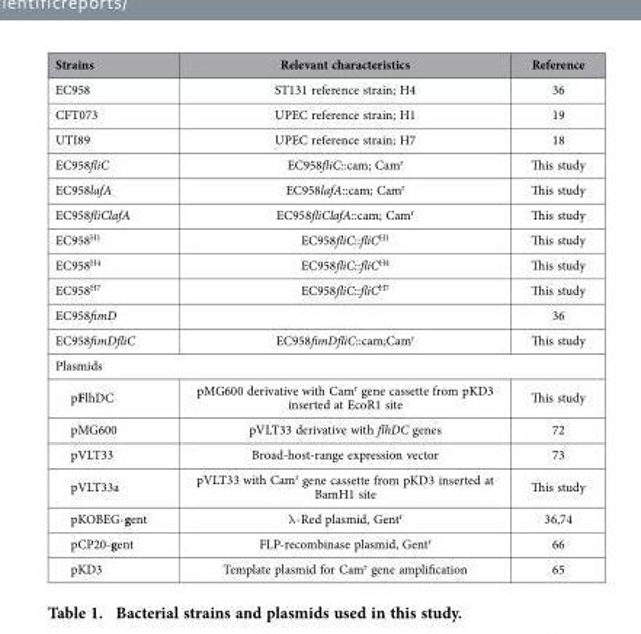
<table><thead><tr><td>Strains</td><td>Relevant characteristics</td><td>Reference</td></tr></thead><tbody><tr><td>EC958</td><td>ST131 reference strain; H4</td><td>36</td></tr><tr><td>CFT073</td><td>UPEC reference strain; H1</td><td>19</td></tr><tr><td>UTI89</td><td>UPEC reference strain; H7</td><td>18</td></tr><tr><td>EC958fliC</td><td>EC958fliC::cam; Cam<sup>r</sup></td><td>This study</td></tr><tr><td>EC958lafA</td><td>EC958lafA::cam; Cam<sup>r</sup></td><td>This study</td></tr><tr><td>EC958fliClafA</td><td>EC958fliClafA::cam; Cam<sup>r</sup></td><td>This study</td></tr><tr><td>EC958<sup>H1</sup></td><td>EC958fliC::fliC<sup>H1</sup></td><td>This study</td></tr><tr><td>EC958<sup>H4</sup></td><td>EC958fliC::fliC<sup>H4</sup></td><td>This study</td></tr><tr><td>EC958<sup>H7</sup></td><td>EC958fliC::fliC<sup>H7</sup></td><td>This study</td></tr><tr><td>EC958fimD</td><td></td><td>36</td></tr><tr><td>EC958fimDfliC</td><td>EC958fimDfliC::cam;Cam<sup>r</sup></td><td>This study</td></tr><tr><td colspan="3">Plasmids</td></tr><tr><td>pFlhDC</td><td>pMG600 derivative with Cam<sup>r</sup> gene cassette from pKD3 inserted at EcoR1 site</td><td>This study</td></tr><tr><td>pMG600</td><td>pVLT33 derivative with flhDC genes</td><td>72</td></tr><tr><td>pVLT33</td><td>Broad-host-range expression vector</td><td>73</td></tr><tr><td>pVLT33a</td><td>pVLT33 with Cam<sup>r</sup> gene cassette from pKD3 inserted at BamH1 site</td><td>This study</td></tr><tr><td>pKOBEG-gent</td><td>λ -Red plasmid, Gent<sup>r</sup></td><td>36,74</td></tr><tr><td>pCP20-gent</td><td>FLP-recombinase plasmid, Gent<sup>r</sup></td><td>66</td></tr><tr><td>pKD3</td><td>Template plasmid for Cam<sup>r</sup> gene amplification</td><td>65</td></tr></tbody></table>